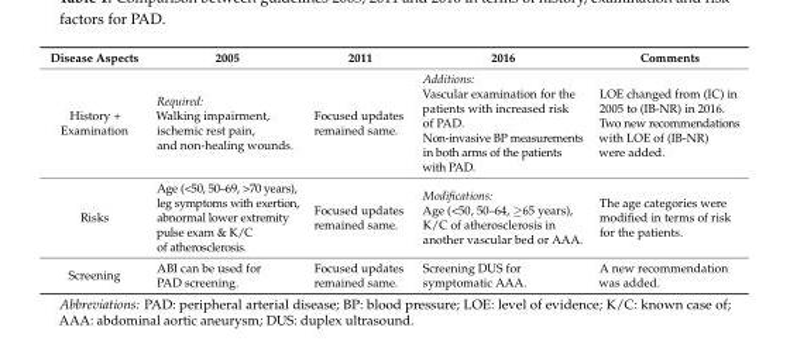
<table><thead><tr><td>Disease Aspects</td><td>2005</td><td>2011</td><td>2016</td><td>Comments</td></tr></thead><tbody><tr><td>History + Examination</td><td>Required: Walking impairment, ischemic rest pain, and non-healing wounds.</td><td>Focused updates remained same.</td><td>Additions: Vascular examination for the patients with increased risk of PAD. Non-invasive BP measurements in both arms of the patients with PAD.</td><td>LOE changed from (IC) in 2005 to (IB-NR) in 2016. Two new recommendations with LOE of (IB-NR) were added.</td></tr><tr><td>Risks</td><td>Age (&lt;50, 50–69, &gt;70 years), leg symptoms with exertion, abnormal lower extremity pulse exam &amp; K/C of atherosclerosis.</td><td>Focused updates remained same.</td><td>Modifications: Age (&lt;50, 50–64, ≥65 years), K/C of atherosclerosis in another vascular bed or AAA.</td><td>The age categories were modified in terms of risk for the patients.</td></tr><tr><td>Screening</td><td>ABI can be used for PAD screening.</td><td>Focused updates remained same.</td><td>Screening DUS for symptomatic AAA.</td><td>A new recommendation was added.</td></tr></tbody></table>